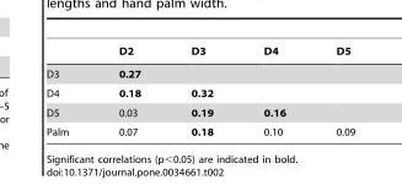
<table><thead><tr><td></td><td>D2</td><td>D3</td><td>D4</td><td>D5</td></tr></thead><tbody><tr><td>D3</td><td>0.27</td><td></td><td></td><td></td></tr><tr><td>D4</td><td>0.18</td><td>0.32</td><td></td><td></td></tr><tr><td>D5</td><td>0.03</td><td>0.19</td><td>0.16</td><td></td></tr><tr><td>Palm</td><td>0.07</td><td>0.18</td><td>0.10</td><td>0.09</td></tr></tbody></table>